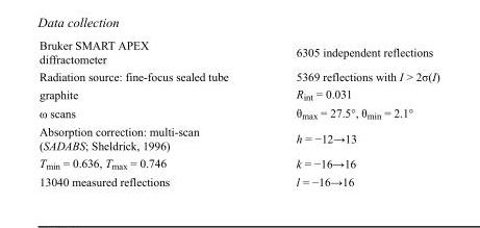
<table><tbody><tr><td>Bruker SMART APEX diffractometer</td><td>6305 independent reflections</td></tr><tr><td>Radiation source: fine-focus sealed tube</td><td>5369 reflections with I &gt; 2σ(I)</td></tr><tr><td>graphite</td><td>R<sub>int</sub> = 0.031</td></tr><tr><td>ω scans</td><td>θ<sub>max</sub> = 27.5°, θ<sub>min</sub> = 2.1°</td></tr><tr><td>Absorption correction: multi-scan (SADABS; Sheldrick, 1996)</td><td>h = −12→13</td></tr><tr><td>T<sub>min</sub> = 0.636, T<sub>max</sub> = 0.746</td><td>k = −16→16</td></tr><tr><td>13040 measured reflections</td><td>l = −16→16</td></tr></tbody></table>